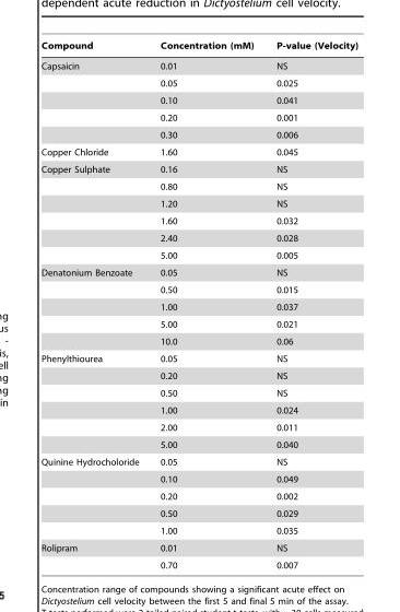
<table><thead><tr><td>Compound</td><td>Concentration (mM)</td><td>P-value (Velocity)</td></tr></thead><tbody><tr><td rowspan="5">Capsaicin</td><td>0.01</td><td>NS</td></tr><tr><td>0.05</td><td>0.025</td></tr><tr><td>0.10</td><td>0.041</td></tr><tr><td>0.20</td><td>0.001</td></tr><tr><td>0.30</td><td>0.006</td></tr><tr><td>Copper Chloride</td><td>1.60</td><td>0.045</td></tr><tr><td rowspan="6">Copper Sulphate</td><td>0.16</td><td>NS</td></tr><tr><td>0.80</td><td>NS</td></tr><tr><td>1.20</td><td>NS</td></tr><tr><td>1.60</td><td>0.032</td></tr><tr><td>2.40</td><td>0.028</td></tr><tr><td>5.00</td><td>0.005</td></tr><tr><td rowspan="5">Denatonium Benzoate</td><td>0.05</td><td>NS</td></tr><tr><td>0.50</td><td>0.015</td></tr><tr><td>1.00</td><td>0.037</td></tr><tr><td>5.00</td><td>0.021</td></tr><tr><td>10.0</td><td>0.06</td></tr><tr><td rowspan="6">Phenylthiourea</td><td>0.05</td><td>NS</td></tr><tr><td>0.20</td><td>NS</td></tr><tr><td>0.50</td><td>NS</td></tr><tr><td>1.00</td><td>0.024</td></tr><tr><td>2.00</td><td>0.011</td></tr><tr><td>5.00</td><td>0.040</td></tr><tr><td rowspan="5">Quinine Hydrocholoride</td><td>0.05</td><td>NS</td></tr><tr><td>0.10</td><td>0.049</td></tr><tr><td>0.20</td><td>0.002</td></tr><tr><td>0.50</td><td>0.029</td></tr><tr><td>1.00</td><td>0.035</td></tr><tr><td rowspan="2">Rolipram</td><td>0.01</td><td>NS</td></tr><tr><td>0.70</td><td>0.007</td></tr></tbody></table>